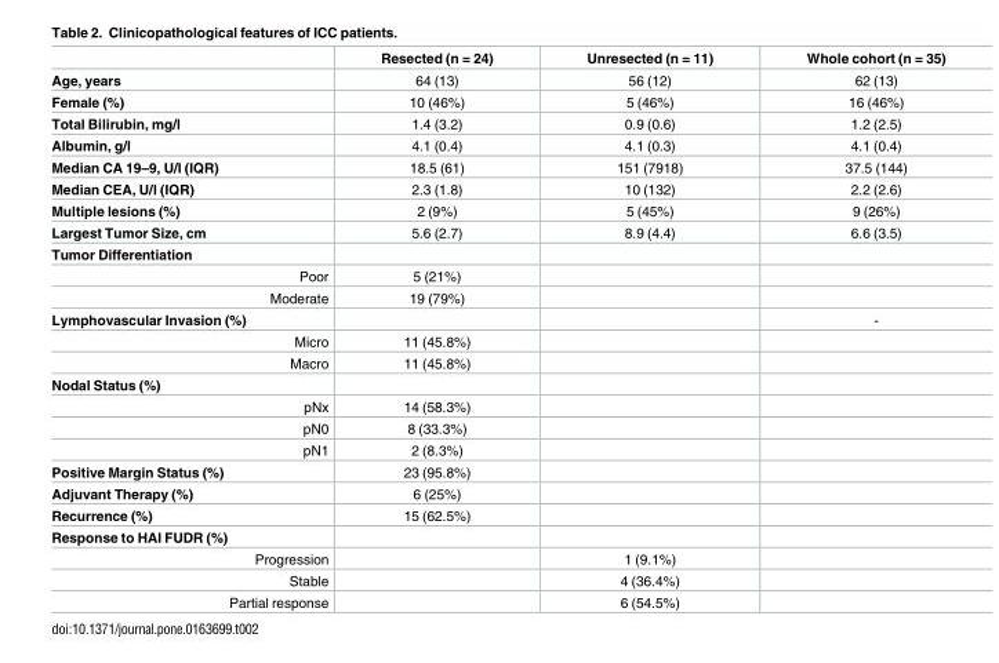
<table><thead><tr><td></td><td>Resected (n = 24)</td><td>Unresected (n = 11)</td><td>Whole cohort (n = 35)</td></tr></thead><tbody><tr><td>Age, years</td><td>64 (13)</td><td>56 (12)</td><td>62 (13)</td></tr><tr><td>Female (%)</td><td>10 (46%)</td><td>5 (46%)</td><td>16 (46%)</td></tr><tr><td>Total Bilirubin, mg/l</td><td>1.4 (3.2)</td><td>0.9 (0.6)</td><td>1.2 (2.5)</td></tr><tr><td>Albumin, g/l</td><td>4.1 (0.4)</td><td>4.1 (0.3)</td><td>4.1 (0.4)</td></tr><tr><td>Median CA 19–9, U/l (IQR)</td><td>18.5 (61)</td><td>151 (7918)</td><td>37.5 (144)</td></tr><tr><td>Median CEA, U/l (IQR)</td><td>2.3 (1.8)</td><td>10 (132)</td><td>2.2 (2.6)</td></tr><tr><td>Multiple lesions (%)</td><td>2 (9%)</td><td>5 (45%)</td><td>9 (26%)</td></tr><tr><td>Largest Tumor Size, cm</td><td>5.6 (2.7)</td><td>8.9 (4.4)</td><td>6.6 (3.5)</td></tr><tr><td colspan="4">Tumor Differentiation</td></tr><tr><td>Poor</td><td>5 (21%)</td><td></td><td></td></tr><tr><td>Moderate</td><td>19 (79%)</td><td></td><td></td></tr><tr><td>Lymphovascular Invasion (%)</td><td></td><td></td><td>-</td></tr><tr><td>Micro</td><td>11 (45.8%)</td><td></td><td></td></tr><tr><td>Macro</td><td>11 (45.8%)</td><td></td><td></td></tr><tr><td colspan="4">Nodal Status (%)</td></tr><tr><td>pNx</td><td>14 (58.3%)</td><td></td><td></td></tr><tr><td>pN0</td><td>8 (33.3%)</td><td></td><td></td></tr><tr><td>pN1</td><td>2 (8.3%)</td><td></td><td></td></tr><tr><td>Positive Margin Status (%)</td><td>23 (95.8%)</td><td></td><td></td></tr><tr><td>Adjuvant Therapy (%)</td><td>6 (25%)</td><td></td><td></td></tr><tr><td>Recurrence (%)</td><td>15 (62.5%)</td><td></td><td></td></tr><tr><td colspan="4">Response to HAI FUDR (%)</td></tr><tr><td>Progression</td><td></td><td>1 (9.1%)</td><td></td></tr><tr><td>Stable</td><td></td><td>4 (36.4%)</td><td></td></tr><tr><td>Partial response</td><td></td><td>6 (54.5%)</td><td></td></tr></tbody></table>